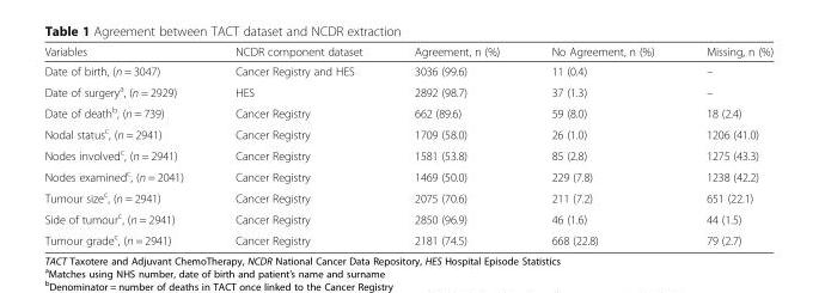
<table><thead><tr><td>Variables</td><td>NCDR component dataset</td><td>Agreement, n (%)</td><td>No Agreement, n (%)</td><td>Missing, n (%)</td></tr></thead><tbody><tr><td>Date of birth, (n = 3047)</td><td>Cancer Registry and HES</td><td>3036 (99.6)</td><td>11 (0.4)</td><td>–</td></tr><tr><td>Date of surgery<sup>a</sup>, (n = 2929)</td><td>HES</td><td>2892 (98.7)</td><td>37 (1.3)</td><td>–</td></tr><tr><td>Date of death<sup>b</sup>, (n = 739)</td><td>Cancer Registry</td><td>662 (89.6)</td><td>59 (8.0)</td><td>18 (2.4)</td></tr><tr><td>Nodal status<sup>c</sup>, (n = 2941)</td><td>Cancer Registry</td><td>1709 (58.0)</td><td>26 (1.0)</td><td>1206 (41.0)</td></tr><tr><td>Nodes involved<sup>c</sup>, (n = 2941)</td><td>Cancer Registry</td><td>1581 (53.8)</td><td>85 (2.8)</td><td>1275 (43.3)</td></tr><tr><td>Nodes examined<sup>c</sup>, (n = 2041)</td><td>Cancer Registry</td><td>1469 (50.0)</td><td>229 (7.8)</td><td>1238 (42.2)</td></tr><tr><td>Tumour size<sup>c</sup>, (n = 2941)</td><td>Cancer Registry</td><td>2075 (70.6)</td><td>211 (7.2)</td><td>651 (22.1)</td></tr><tr><td>Side of tumour<sup>c</sup>, (n = 2941)</td><td>Cancer Registry</td><td>2850 (96.9)</td><td>46 (1.6)</td><td>44 (1.5)</td></tr><tr><td>Tumour grade<sup>c</sup>, (n = 2941)</td><td>Cancer Registry</td><td>2181 (74.5)</td><td>668 (22.8)</td><td>79 (2.7)</td></tr></tbody></table>